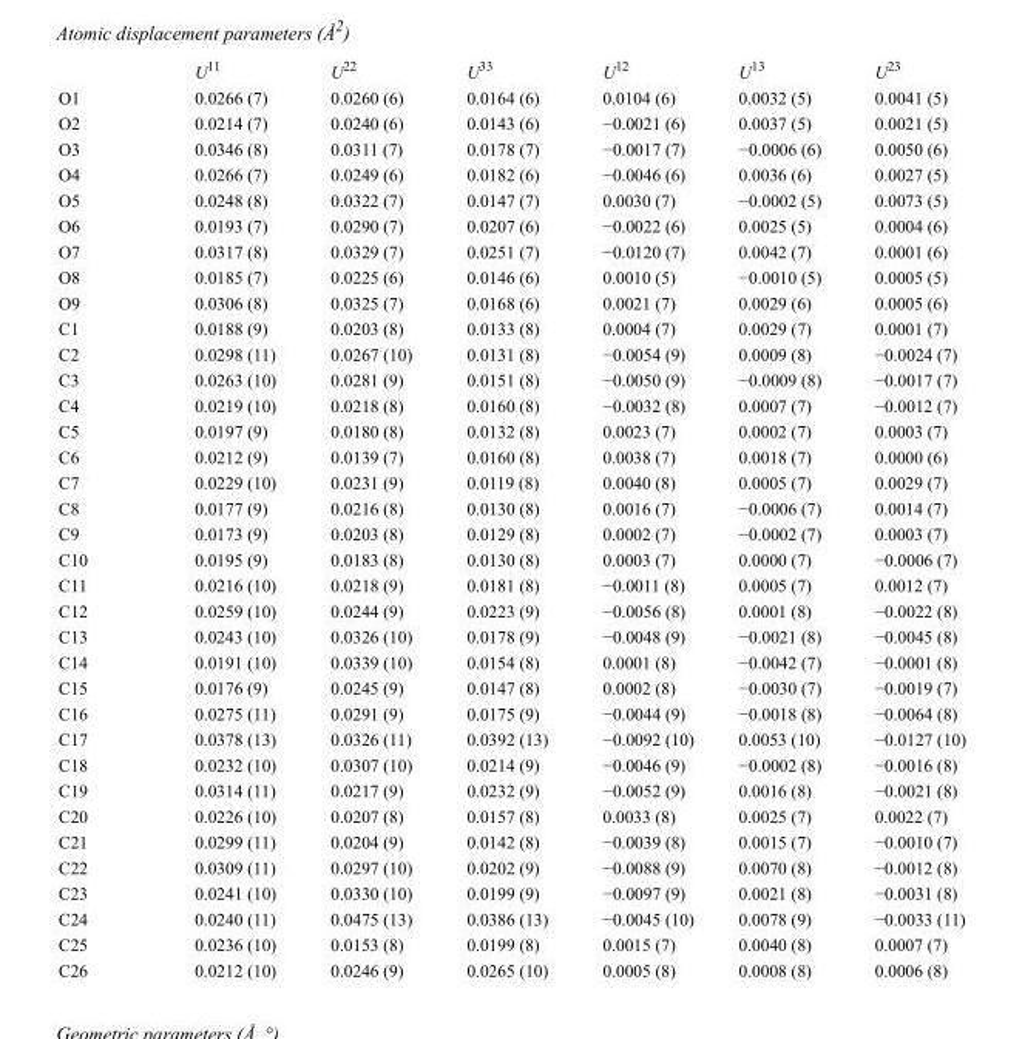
<table><thead><tr><td></td><td>U<sup>11</sup></td><td>U<sup>22</sup></td><td>U<sup>33</sup></td><td>U<sup>12</sup></td><td>U<sup>13</sup></td><td>U<sup>23</sup></td></tr></thead><tbody><tr><td>O1</td><td>0.0266 (7)</td><td>0.0260 (6)</td><td>0.0164 (6)</td><td>0.0104 (6)</td><td>0.0032 (5)</td><td>0.0041 (5)</td></tr><tr><td>O2</td><td>0.0214 (7)</td><td>0.0240 (6)</td><td>0.0143 (6)</td><td>−0.0021 (6)</td><td>0.0037 (5)</td><td>0.0021 (5)</td></tr><tr><td>O3</td><td>0.0346 (8)</td><td>0.0311 (7)</td><td>0.0178 (7)</td><td>−0.0017 (7)</td><td>−0.0006 (6)</td><td>0.0050 (6)</td></tr><tr><td>O4</td><td>0.0266 (7)</td><td>0.0249 (6)</td><td>0.0182 (6)</td><td>−0.0046 (6)</td><td>0.0036 (6)</td><td>0.0027 (5)</td></tr><tr><td>O5</td><td>0.0248 (8)</td><td>0.0322 (7)</td><td>0.0147 (7)</td><td>0.0030 (7)</td><td>−0.0002 (5)</td><td>0.0073 (5)</td></tr><tr><td>O6</td><td>0.0193 (7)</td><td>0.0290 (7)</td><td>0.0207 (6)</td><td>−0.0022 (6)</td><td>0.0025 (5)</td><td>0.0004 (6)</td></tr><tr><td>O7</td><td>0.0317 (8)</td><td>0.0329 (7)</td><td>0.0251 (7)</td><td>−0.0120 (7)</td><td>0.0042 (7)</td><td>0.0001 (6)</td></tr><tr><td>O8</td><td>0.0185 (7)</td><td>0.0225 (6)</td><td>0.0146 (6)</td><td>0.0010 (5)</td><td>−0.0010 (5)</td><td>0.0005 (5)</td></tr><tr><td>O9</td><td>0.0306 (8)</td><td>0.0325 (7)</td><td>0.0168 (6)</td><td>0.0021 (7)</td><td>0.0029 (6)</td><td>0.0005 (6)</td></tr><tr><td>C1</td><td>0.0188 (9)</td><td>0.0203 (8)</td><td>0.0133 (8)</td><td>0.0004 (7)</td><td>0.0029 (7)</td><td>0.0001 (7)</td></tr><tr><td>C2</td><td>0.0298 (11)</td><td>0.0267 (10)</td><td>0.0131 (8)</td><td>−0.0054 (9)</td><td>0.0009 (8)</td><td>−0.0024 (7)</td></tr><tr><td>C3</td><td>0.0263 (10)</td><td>0.0281 (9)</td><td>0.0151 (8)</td><td>−0.0050 (9)</td><td>−0.0009 (8)</td><td>−0.0017 (7)</td></tr><tr><td>C4</td><td>0.0219 (10)</td><td>0.0218 (8)</td><td>0.0160 (8)</td><td>−0.0032 (8)</td><td>0.0007 (7)</td><td>−0.0012 (7)</td></tr><tr><td>C5</td><td>0.0197 (9)</td><td>0.0180 (8)</td><td>0.0132 (8)</td><td>0.0023 (7)</td><td>0.0002 (7)</td><td>0.0003 (7)</td></tr><tr><td>C6</td><td>0.0212 (9)</td><td>0.0139 (7)</td><td>0.0160 (8)</td><td>0.0038 (7)</td><td>0.0018 (7)</td><td>0.0000 (6)</td></tr><tr><td>C7</td><td>0.0229 (10)</td><td>0.0231 (9)</td><td>0.0119 (8)</td><td>0.0040 (8)</td><td>0.0005 (7)</td><td>0.0029 (7)</td></tr><tr><td>C8</td><td>0.0177 (9)</td><td>0.0216 (8)</td><td>0.0130 (8)</td><td>0.0016 (7)</td><td>−0.0006 (7)</td><td>0.0014 (7)</td></tr><tr><td>C9</td><td>0.0173 (9)</td><td>0.0203 (8)</td><td>0.0129 (8)</td><td>0.0002 (7)</td><td>−0.0002 (7)</td><td>0.0003 (7)</td></tr><tr><td>C10</td><td>0.0195 (9)</td><td>0.0183 (8)</td><td>0.0130 (8)</td><td>0.0003 (7)</td><td>0.0000 (7)</td><td>−0.0006 (7)</td></tr><tr><td>C11</td><td>0.0216 (10)</td><td>0.0218 (9)</td><td>0.0181 (8)</td><td>−0.0011 (8)</td><td>0.0005 (7)</td><td>0.0012 (7)</td></tr><tr><td>C12</td><td>0.0259 (10)</td><td>0.0244 (9)</td><td>0.0223 (9)</td><td>−0.0056 (8)</td><td>0.0001 (8)</td><td>−0.0022 (8)</td></tr><tr><td>C13</td><td>0.0243 (10)</td><td>0.0326 (10)</td><td>0.0178 (9)</td><td>−0.0048 (9)</td><td>−0.0021 (8)</td><td>−0.0045 (8)</td></tr><tr><td>C14</td><td>0.0191 (10)</td><td>0.0339 (10)</td><td>0.0154 (8)</td><td>0.0001 (8)</td><td>−0.0042 (7)</td><td>−0.0001 (8)</td></tr><tr><td>C15</td><td>0.0176 (9)</td><td>0.0245 (9)</td><td>0.0147 (8)</td><td>0.0002 (8)</td><td>−0.0030 (7)</td><td>−0.0019 (7)</td></tr><tr><td>C16</td><td>0.0275 (11)</td><td>0.0291 (9)</td><td>0.0175 (9)</td><td>−0.0044 (9)</td><td>−0.0018 (8)</td><td>−0.0064 (8)</td></tr><tr><td>C17</td><td>0.0378 (13)</td><td>0.0326 (11)</td><td>0.0392 (13)</td><td>−0.0092 (10)</td><td>0.0053 (10)</td><td>−0.0127 (10)</td></tr><tr><td>C18</td><td>0.0232 (10)</td><td>0.0307 (10)</td><td>0.0214 (9)</td><td>−0.0046 (9)</td><td>−0.0002 (8)</td><td>−0.0016 (8)</td></tr><tr><td>C19</td><td>0.0314 (11)</td><td>0.0217 (9)</td><td>0.0232 (9)</td><td>−0.0052 (9)</td><td>0.0016 (8)</td><td>−0.0021 (8)</td></tr><tr><td>C20</td><td>0.0226 (10)</td><td>0.0207 (8)</td><td>0.0157 (8)</td><td>0.0033 (8)</td><td>0.0025 (7)</td><td>0.0022 (7)</td></tr><tr><td>C21</td><td>0.0299 (11)</td><td>0.0204 (9)</td><td>0.0142 (8)</td><td>−0.0039 (8)</td><td>0.0015 (7)</td><td>−0.0010 (7)</td></tr><tr><td>C22</td><td>0.0309 (11)</td><td>0.0297 (10)</td><td>0.0202 (9)</td><td>−0.0088 (9)</td><td>0.0070 (8)</td><td>−0.0012 (8)</td></tr><tr><td>C23</td><td>0.0241 (10)</td><td>0.0330 (10)</td><td>0.0199 (9)</td><td>−0.0097 (9)</td><td>0.0021 (8)</td><td>−0.0031 (8)</td></tr><tr><td>C24</td><td>0.0240 (11)</td><td>0.0475 (13)</td><td>0.0386 (13)</td><td>−0.0045 (10)</td><td>0.0078 (9)</td><td>−0.0033 (11)</td></tr><tr><td>C25</td><td>0.0236 (10)</td><td>0.0153 (8)</td><td>0.0199 (8)</td><td>0.0015 (7)</td><td>0.0040 (8)</td><td>0.0007 (7)</td></tr><tr><td>C26</td><td>0.0212 (10)</td><td>0.0246 (9)</td><td>0.0265 (10)</td><td>0.0005 (8)</td><td>0.0008 (8)</td><td>0.0006 (8)</td></tr></tbody></table>